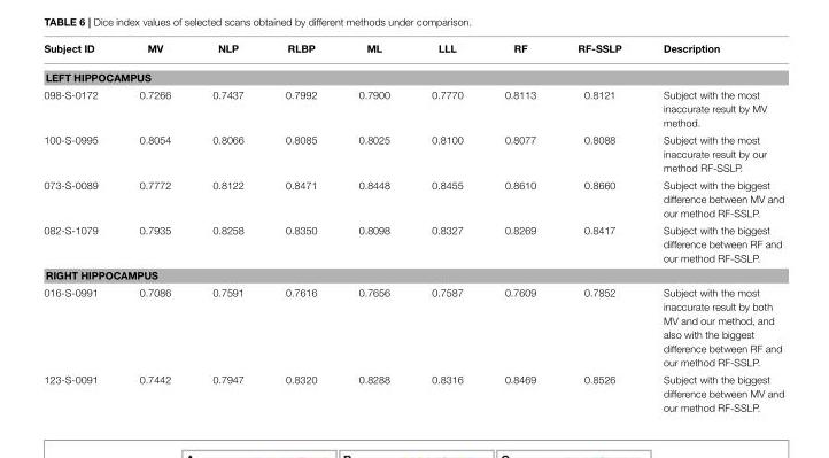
<table><thead><tr><td>Subject ID</td><td>MV</td><td>NLP</td><td>RLBP</td><td>ML</td><td>LLL</td><td>RF</td><td>RF-SSLP</td><td>Description</td></tr></thead><tbody><tr><td colspan="9">LEFT HIPPOCAMPUS</td></tr><tr><td>098-S-0172</td><td>0.7266</td><td>0.7437</td><td>0.7992</td><td>0.7900</td><td>0.7770</td><td>0.8113</td><td>0.8121</td><td>Subject with the most inaccurate result by MV method.</td></tr><tr><td>100-S-0995</td><td>0.8054</td><td>0.8066</td><td>0.8085</td><td>0.8025</td><td>0.8100</td><td>0.8077</td><td>0.8088</td><td>Subject with the most inaccurate result by our method RF-SSLP.</td></tr><tr><td>073-S-0089</td><td>0.7772</td><td>0.8122</td><td>0.8471</td><td>0.8448</td><td>0.8455</td><td>0.8610</td><td>0.8660</td><td>Subject with the biggest difference between MV and our method RF-SSLP.</td></tr><tr><td>082-S-1079</td><td>0.7935</td><td>0.8258</td><td>0.8350</td><td>0.8098</td><td>0.8327</td><td>0.8269</td><td>0.8417</td><td>Subject with the biggest difference between RF and our method RF-SSLP.</td></tr><tr><td colspan="9">RIGHT HIPPOCAMPUS</td></tr><tr><td>016-S-0991</td><td>0.7086</td><td>0.7591</td><td>0.7616</td><td>0.7656</td><td>0.7587</td><td>0.7609</td><td>0.7852</td><td>Subject with the most inaccurate result by both MV and our method, and also with the biggest difference between RF and our method RF-SSLP.</td></tr><tr><td>123-S-0091</td><td>0.7442</td><td>0.7947</td><td>0.8320</td><td>0.8288</td><td>0.8316</td><td>0.8469</td><td>0.8526</td><td>Subject with the biggest difference between MV and our method RF-SSLP.</td></tr></tbody></table>